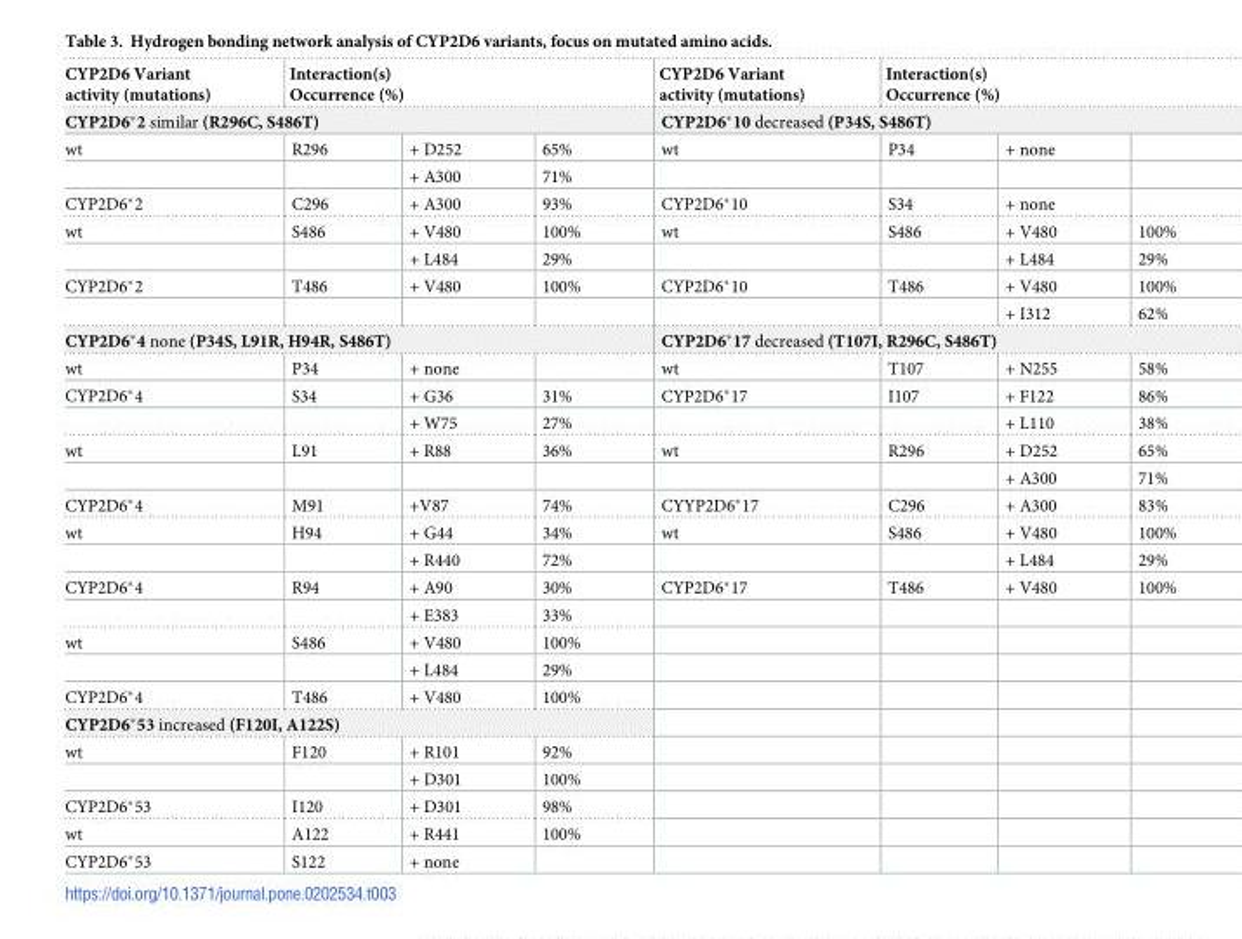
<table><thead><tr><td>CYP2D6 Variant activity (mutations)</td><td colspan="3">Interaction(s) Occurrence (%)</td><td>CYP2D6 Variant activity (mutations)</td><td colspan="3">Interaction(s) Occurrence (%)</td></tr><tr><td colspan="4">CYP2D6*2 similar (R296C, S486T)</td><td colspan="4">CYP2D6*10 decreased (P34S, S486T)</td></tr><tr><td>wt</td><td>R296</td><td>+ D252</td><td>65%</td><td>wt</td><td>P34</td><td>+ none</td><td></td></tr></thead><tbody><tr><td></td><td></td><td>+ A300</td><td>71%</td><td></td><td></td><td></td><td></td></tr><tr><td>CYP2D6*2</td><td>C296</td><td>+ A300</td><td>93%</td><td>CYP2D6*10</td><td>S34</td><td>+ none</td><td></td></tr><tr><td rowspan="2">wt</td><td>S486</td><td>+ V480</td><td>100%</td><td>wt</td><td>S486</td><td>+ V480</td><td>100%</td></tr><tr><td></td><td>+ L484</td><td>29%</td><td></td><td></td><td>+ L484</td><td>29%</td></tr><tr><td rowspan="2">CYP2D6*2</td><td>T486</td><td>+ V480</td><td>100%</td><td>CYP2D6*10</td><td>T486</td><td>+ V480</td><td>100%</td></tr><tr><td></td><td></td><td></td><td></td><td></td><td>+ I312</td><td>62%</td></tr><tr><td colspan="4">CYP2D6*4 none (P34S, L91R, H94R, S486T)</td><td colspan="4">CYP2D6*17 decreased (T107I, R296C, S486T)</td></tr><tr><td>wt</td><td>P34</td><td>+ none</td><td></td><td>wt</td><td>T107</td><td>+ N255</td><td>58%</td></tr><tr><td rowspan="2">CYP2D6*4</td><td>S34</td><td>+ G36</td><td>31%</td><td>CYP2D6*17</td><td>I107</td><td>+ F122</td><td>86%</td></tr><tr><td></td><td>+ W75</td><td>27%</td><td></td><td></td><td>+ L110</td><td>38%</td></tr><tr><td rowspan="2">wt</td><td>L91</td><td>+ R88</td><td>36%</td><td>wt</td><td>R296</td><td>+ D252</td><td>65%</td></tr><tr><td></td><td></td><td></td><td></td><td></td><td>+ A300</td><td>71%</td></tr><tr><td>CYP2D6*4</td><td>M91</td><td>+V87</td><td>74%</td><td>CYYP2D6*17</td><td>C296</td><td>+ A300</td><td>83%</td></tr><tr><td rowspan="2">wt</td><td>H94</td><td>+ G44</td><td>34%</td><td>wt</td><td>S486</td><td>+ V480</td><td>100%</td></tr><tr><td></td><td>+ R440</td><td>72%</td><td></td><td></td><td>+ L484</td><td>29%</td></tr><tr><td rowspan="2">CYP2D6*4</td><td>R94</td><td>+ A90</td><td>30%</td><td>CYP2D6*17</td><td>T486</td><td>+ V480</td><td>100%</td></tr><tr><td></td><td>+ E383</td><td>33%</td><td></td><td></td><td></td><td></td></tr><tr><td rowspan="2">wt</td><td>S486</td><td>+ V480</td><td>100%</td><td></td><td></td><td></td><td></td></tr><tr><td></td><td>+ L484</td><td>29%</td><td></td><td></td><td></td><td></td></tr><tr><td>CYP2D6*4</td><td>T486</td><td>+ V480</td><td>100%</td><td></td><td></td><td></td><td></td></tr><tr><td colspan="8">CYP2D6*53 increased (F120I, A122S)</td></tr><tr><td rowspan="2">wt</td><td>F120</td><td>+ R101</td><td>92%</td><td></td><td></td><td></td><td></td></tr><tr><td></td><td>+ D301</td><td>100%</td><td></td><td></td><td></td><td></td></tr><tr><td>CYP2D6*53</td><td>I120</td><td>+ D301</td><td>98%</td><td></td><td></td><td></td><td></td></tr><tr><td>wt</td><td>A122</td><td>+ R441</td><td>100%</td><td></td><td></td><td></td><td></td></tr><tr><td>CYP2D6*53</td><td>S122</td><td>+ none</td><td></td><td></td><td></td><td></td><td></td></tr></tbody></table>